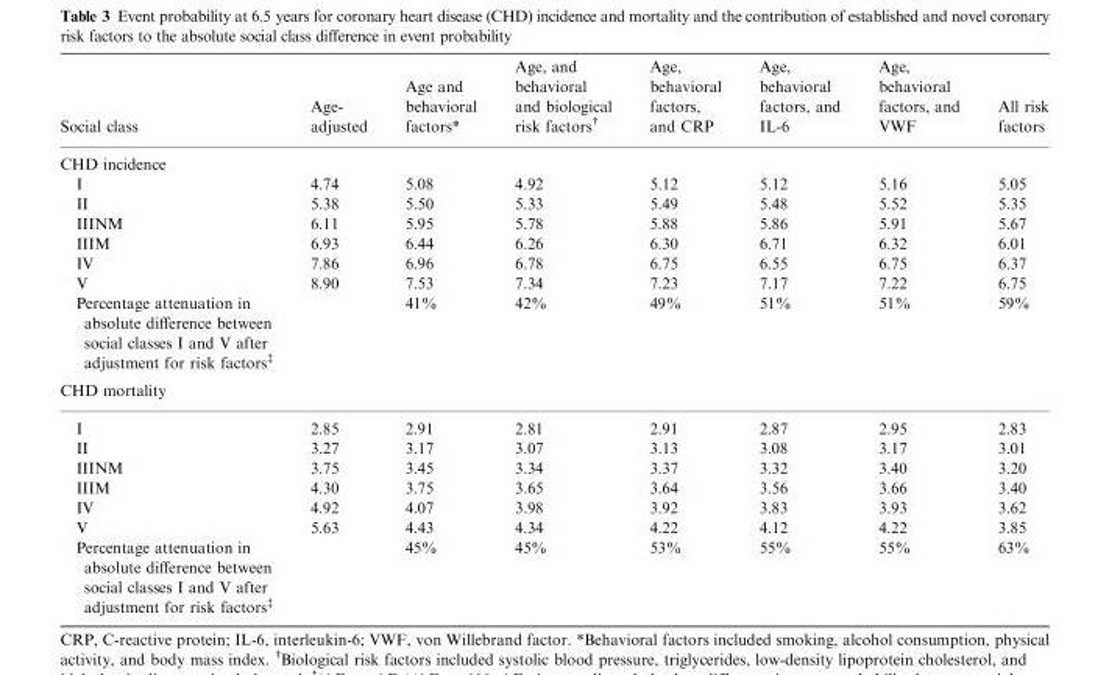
<table><thead><tr><td>Social class</td><td>Age- adjusted</td><td>Age and behavioral factors*</td><td>Age, and behavioral and biological risk factors†</td><td>Age, behavioral factors, and CRP</td><td>Age, behavioral factors, and IL-6</td><td>Age, behavioral factors, and VWF</td><td>All risk factors</td></tr></thead><tbody><tr><td colspan="8">CHD incidence</td></tr><tr><td>I</td><td>4.74</td><td>5.08</td><td>4.92</td><td>5.12</td><td>5.12</td><td>5.16</td><td>5.05</td></tr><tr><td>II</td><td>5.38</td><td>5.50</td><td>5.33</td><td>5.49</td><td>5.48</td><td>5.52</td><td>5.35</td></tr><tr><td>IIINM</td><td>6.11</td><td>5.95</td><td>5.78</td><td>5.88</td><td>5.86</td><td>5.91</td><td>5.67</td></tr><tr><td>IIIM</td><td>6.93</td><td>6.44</td><td>6.26</td><td>6.30</td><td>6.71</td><td>6.32</td><td>6.01</td></tr><tr><td>IV</td><td>7.86</td><td>6.96</td><td>6.78</td><td>6.75</td><td>6.55</td><td>6.75</td><td>6.37</td></tr><tr><td>V</td><td>8.90</td><td>7.53</td><td>7.34</td><td>7.23</td><td>7.17</td><td>7.22</td><td>6.75</td></tr><tr><td>Percentage attenuation in absolute difference between social classes I and V after adjustment for risk factors‡</td><td></td><td>41%</td><td>42%</td><td>49%</td><td>51%</td><td>51%</td><td>59%</td></tr><tr><td colspan="8">CHD mortality</td></tr><tr><td>I</td><td>2.85</td><td>2.91</td><td>2.81</td><td>2.91</td><td>2.87</td><td>2.95</td><td>2.83</td></tr><tr><td>II</td><td>3.27</td><td>3.17</td><td>3.07</td><td>3.13</td><td>3.08</td><td>3.17</td><td>3.01</td></tr><tr><td>IIINM</td><td>3.75</td><td>3.45</td><td>3.34</td><td>3.37</td><td>3.32</td><td>3.40</td><td>3.20</td></tr><tr><td>IIIM</td><td>4.30</td><td>3.75</td><td>3.65</td><td>3.64</td><td>3.56</td><td>3.66</td><td>3.40</td></tr><tr><td>IV</td><td>4.92</td><td>4.07</td><td>3.98</td><td>3.92</td><td>3.83</td><td>3.93</td><td>3.62</td></tr><tr><td>V</td><td>5.63</td><td>4.43</td><td>4.34</td><td>4.22</td><td>4.12</td><td>4.22</td><td>3.85</td></tr><tr><td>Percentage attenuation in absolute difference between social classes I and V after adjustment for risk factors‡</td><td></td><td>45%</td><td>45%</td><td>53%</td><td>55%</td><td>55%</td><td>63%</td></tr></tbody></table>